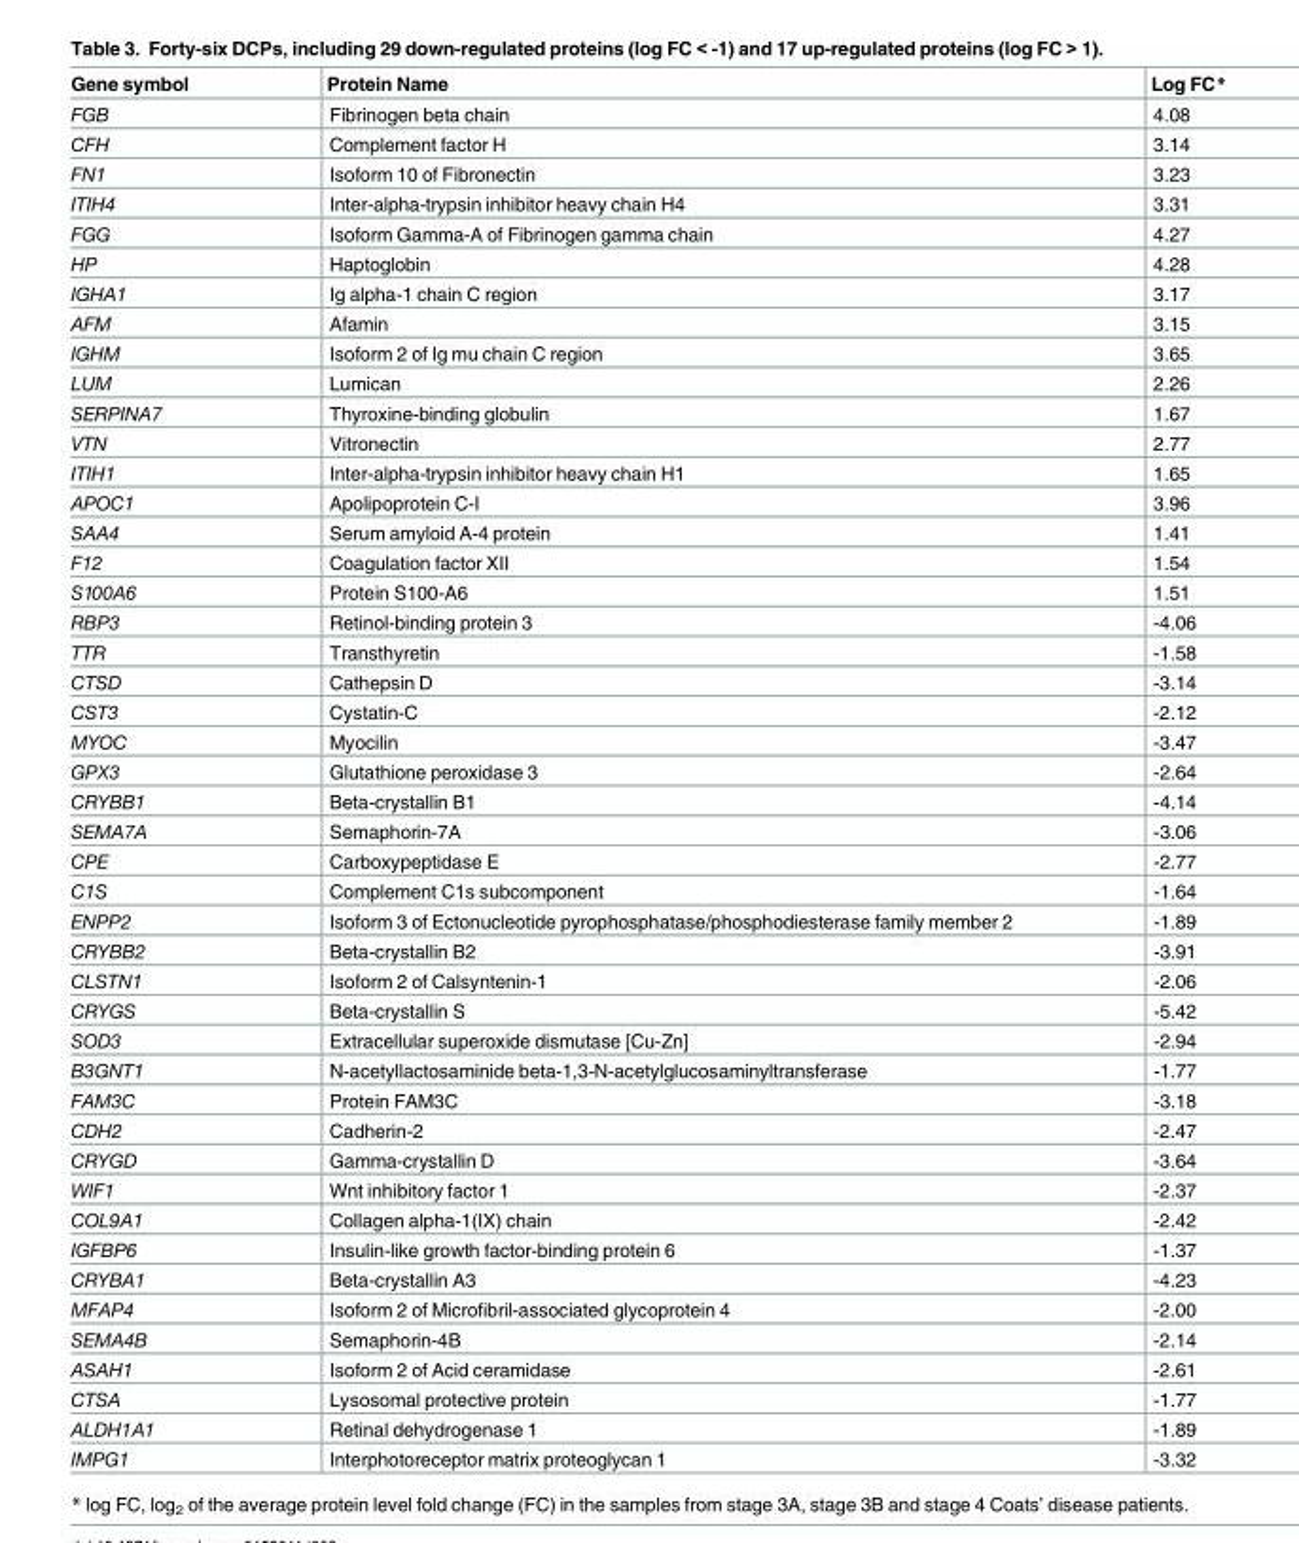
<table><thead><tr><td>Gene symbol</td><td>Protein Name</td><td>Log FC*</td></tr></thead><tbody><tr><td>FGB</td><td>Fibrinogen beta chain</td><td>4.08</td></tr><tr><td>CFH</td><td>Complement factor H</td><td>3.14</td></tr><tr><td>FN1</td><td>Isoform 10 of Fibronectin</td><td>3.23</td></tr><tr><td>ITIH4</td><td>Inter-alpha-trypsin inhibitor heavy chain H4</td><td>3.31</td></tr><tr><td>FGG</td><td>Isoform Gamma-A of Fibrinogen gamma chain</td><td>4.27</td></tr><tr><td>HP</td><td>Haptoglobin</td><td>4.28</td></tr><tr><td>IGHA1</td><td>Ig alpha-1 chain C region</td><td>3.17</td></tr><tr><td>AFM</td><td>Afamin</td><td>3.15</td></tr><tr><td>IGHM</td><td>Isoform 2 of Ig mu chain C region</td><td>3.65</td></tr><tr><td>LUM</td><td>Lumican</td><td>2.26</td></tr><tr><td>SERPINA7</td><td>Thyroxine-binding globulin</td><td>1.67</td></tr><tr><td>VTN</td><td>Vitronectin</td><td>2.77</td></tr><tr><td>ITIH1</td><td>Inter-alpha-trypsin inhibitor heavy chain H1</td><td>1.65</td></tr><tr><td>APOC1</td><td>Apolipoprotein C-I</td><td>3.96</td></tr><tr><td>SAA4</td><td>Serum amyloid A-4 protein</td><td>1.41</td></tr><tr><td>F12</td><td>Coagulation factor XII</td><td>1.54</td></tr><tr><td>S100A6</td><td>Protein S100-A6</td><td>1.51</td></tr><tr><td>RBP3</td><td>Retinol-binding protein 3</td><td>-4.06</td></tr><tr><td>TTR</td><td>Transthyretin</td><td>-1.58</td></tr><tr><td>CTSD</td><td>Cathepsin D</td><td>-3.14</td></tr><tr><td>CST3</td><td>Cystatin-C</td><td>-2.12</td></tr><tr><td>MYOC</td><td>Myocilin</td><td>-3.47</td></tr><tr><td>GPX3</td><td>Glutathione peroxidase 3</td><td>-2.64</td></tr><tr><td>CRYBB1</td><td>Beta-crystallin B1</td><td>-4.14</td></tr><tr><td>SEMA7A</td><td>Semaphorin-7A</td><td>-3.06</td></tr><tr><td>CPE</td><td>Carboxypeptidase E</td><td>-2.77</td></tr><tr><td>C1S</td><td>Complement C1s subcomponent</td><td>-1.64</td></tr><tr><td>ENPP2</td><td>Isoform 3 of Ectonucleotide pyrophosphatase/phosphodiesterase family member 2</td><td>-1.89</td></tr><tr><td>CRYBB2</td><td>Beta-crystallin B2</td><td>-3.91</td></tr><tr><td>CLSTN1</td><td>Isoform 2 of Calsyntenin-1</td><td>-2.06</td></tr><tr><td>CRYGS</td><td>Beta-crystallin S</td><td>-5.42</td></tr><tr><td>SOD3</td><td>Extracellular superoxide dismutase [Cu-Zn]</td><td>-2.94</td></tr><tr><td>B3GNT1</td><td>N-acetyllactosaminide beta-1,3-N-acetylglucosaminyltransferase</td><td>-1.77</td></tr><tr><td>FAM3C</td><td>Protein FAM3C</td><td>-3.18</td></tr><tr><td>CDH2</td><td>Cadherin-2</td><td>-2.47</td></tr><tr><td>CRYGD</td><td>Gamma-crystallin D</td><td>-3.64</td></tr><tr><td>WIF1</td><td>Wnt inhibitory factor 1</td><td>-2.37</td></tr><tr><td>COL9A1</td><td>Collagen alpha-1(IX) chain</td><td>-2.42</td></tr><tr><td>IGFBP6</td><td>Insulin-like growth factor-binding protein 6</td><td>-1.37</td></tr><tr><td>CRYBA1</td><td>Beta-crystallin A3</td><td>-4.23</td></tr><tr><td>MFAP4</td><td>Isoform 2 of Microfibril-associated glycoprotein 4</td><td>-2.00</td></tr><tr><td>SEMA4B</td><td>Semaphorin-4B</td><td>-2.14</td></tr><tr><td>ASAH1</td><td>Isoform 2 of Acid ceramidase</td><td>-2.61</td></tr><tr><td>CTSA</td><td>Lysosomal protective protein</td><td>-1.77</td></tr><tr><td>ALDH1A1</td><td>Retinal dehydrogenase 1</td><td>-1.89</td></tr><tr><td>IMPG1</td><td>Interphotoreceptor matrix proteoglycan 1</td><td>-3.32</td></tr></tbody></table>